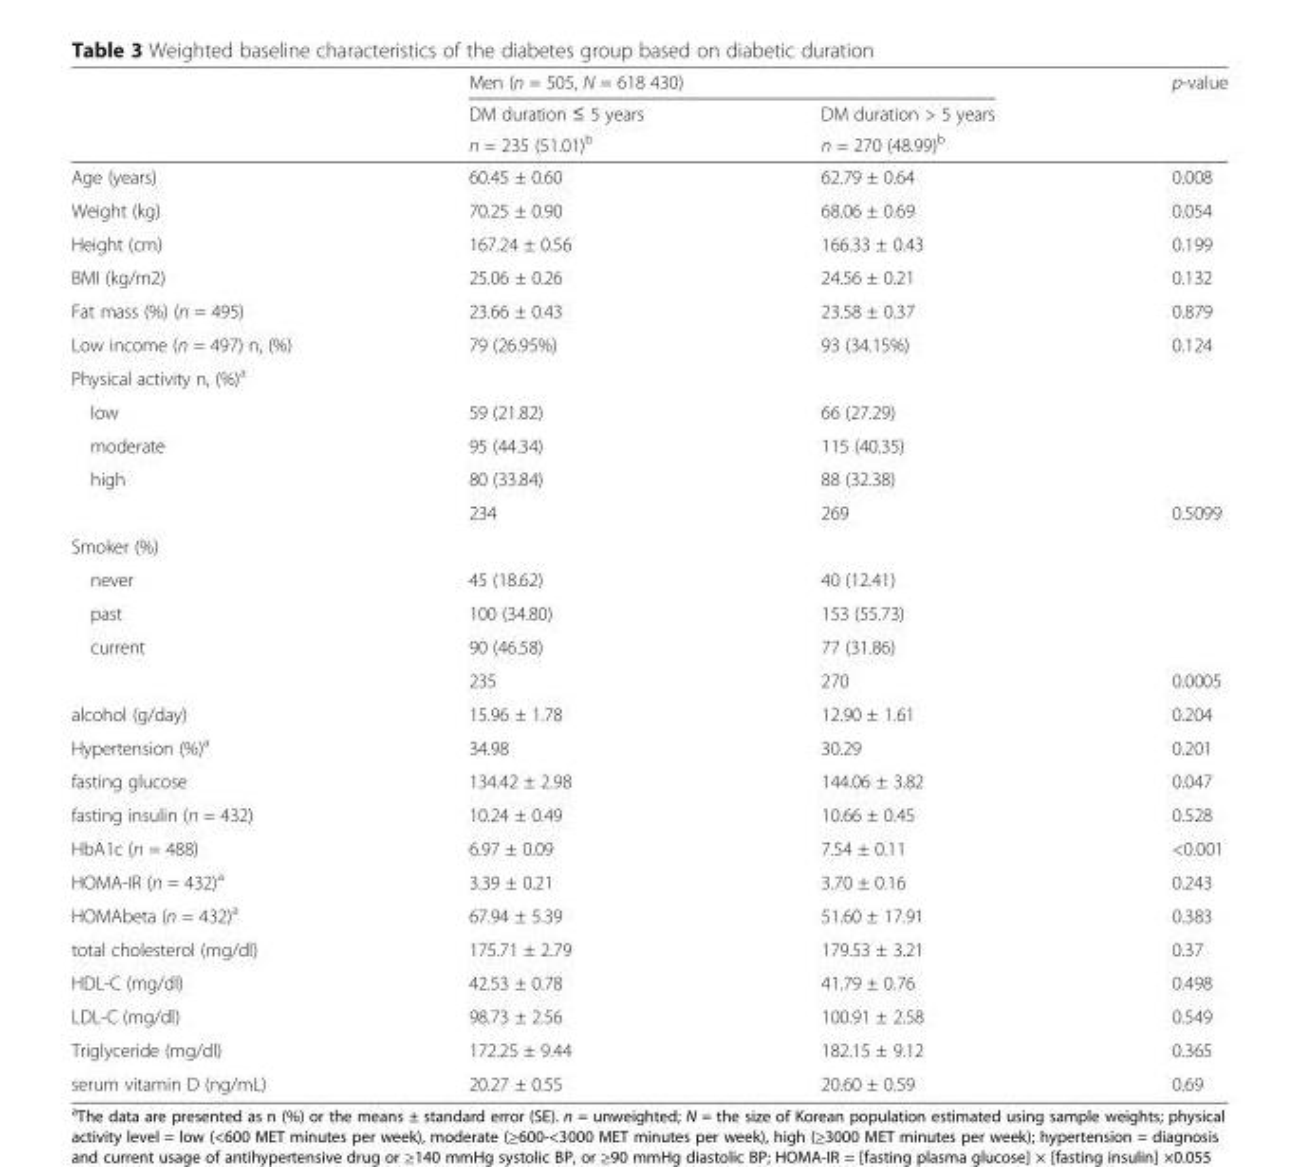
<table><thead><tr><td rowspan="3"></td><td colspan="2">Men (n = 505, N = 618 430)</td><td rowspan="3">p-value</td></tr><tr><td rowspan="2">DM duration ≤ 5 years n = 235 (51.01)<sup>b</sup></td><td rowspan="2">DM duration &gt; 5 years n = 270 (48.99)<sup>b</sup></td></tr><tr></tr></thead><tbody><tr><td>Age (years)</td><td>60.45 ± 0.60</td><td>62.79 ± 0.64</td><td>0.008</td></tr><tr><td>Weight (kg)</td><td>70.25 ± 0.90</td><td>68.06 ± 0.69</td><td>0.054</td></tr><tr><td>Height (cm)</td><td>167.24 ± 0.56</td><td>166.33 ± 0.43</td><td>0.199</td></tr><tr><td>BMI (kg/m2)</td><td>25.06 ± 0.26</td><td>24.56 ± 0.21</td><td>0.132</td></tr><tr><td>Fat mass (%) (n = 495)</td><td>23.66 ± 0.43</td><td>23.58 ± 0.37</td><td>0.879</td></tr><tr><td>Low income (n = 497) n, (%)</td><td>79 (26.95%)</td><td>93 (34.15%)</td><td>0.124</td></tr><tr><td colspan="4">Physical activity n, (%)<sup>a</sup></td></tr><tr><td>low</td><td>59 (21.82)</td><td>66 (27.29)</td><td></td></tr><tr><td>moderate</td><td>95 (44.34)</td><td>115 (40.35)</td><td></td></tr><tr><td rowspan="2">high</td><td>80 (33.84)</td><td>88 (32.38)</td><td></td></tr><tr><td>234</td><td>269</td><td>0.5099</td></tr><tr><td colspan="4">Smoker (%)</td></tr><tr><td>never</td><td>45 (18.62)</td><td>40 (12.41)</td><td></td></tr><tr><td>past</td><td>100 (34.80)</td><td>153 (55.73)</td><td></td></tr><tr><td rowspan="2">current</td><td>90 (46.58)</td><td>77 (31.86)</td><td></td></tr><tr><td>235</td><td>270</td><td>0.0005</td></tr><tr><td>alcohol (g/day)</td><td>15.96 ± 1.78</td><td>12.90 ± 1.61</td><td>0.204</td></tr><tr><td>Hypertension (%)<sup>a</sup></td><td>34.98</td><td>30.29</td><td>0.201</td></tr><tr><td>fasting glucose</td><td>134.42 ± 2.98</td><td>144.06 ± 3.82</td><td>0.047</td></tr><tr><td>fasting insulin (n = 432)</td><td>10.24 ± 0.49</td><td>10.66 ± 0.45</td><td>0.528</td></tr><tr><td>HbA1c (n = 488)</td><td>6.97 ± 0.09</td><td>7.54 ± 0.11</td><td>&lt;0.001</td></tr><tr><td>HOMA-IR (n = 432)<sup>a</sup></td><td>3.39 ± 0.21</td><td>3.70 ± 0.16</td><td>0.243</td></tr><tr><td>HOMAbeta (n = 432)<sup>a</sup></td><td>67.94 ± 5.39</td><td>51.60 ± 17.91</td><td>0.383</td></tr><tr><td>total cholesterol (mg/dl)</td><td>175.71 ± 2.79</td><td>179.53 ± 3.21</td><td>0.37</td></tr><tr><td>HDL-C (mg/dl)</td><td>42.53 ± 0.78</td><td>41.79 ± 0.76</td><td>0.498</td></tr><tr><td>LDL-C (mg/dl)</td><td>98.73 ± 2.56</td><td>100.91 ± 2.58</td><td>0.549</td></tr><tr><td>Triglyceride (mg/dl)</td><td>172.25 ± 9.44</td><td>182.15 ± 9.12</td><td>0.365</td></tr><tr><td>serum vitamin D (ng/mL)</td><td>20.27 ± 0.55</td><td>20.60 ± 0.59</td><td>0.69</td></tr></tbody></table>